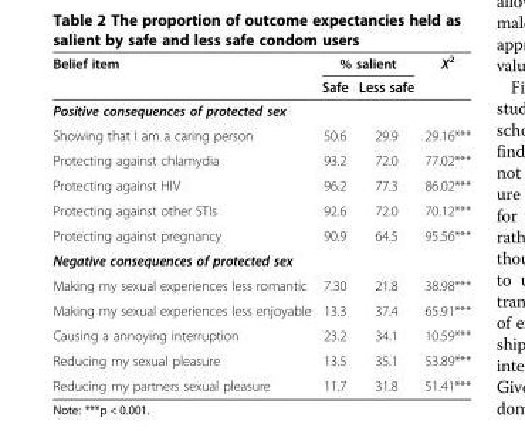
<table><thead><tr><td rowspan="2">Belief item</td><td colspan="2">% salient</td><td rowspan="2">X<sup>2</sup></td></tr><tr><td>Safe</td><td>Less safe</td></tr></thead><tbody><tr><td colspan="4">Positive consequences of protected sex</td></tr><tr><td>Showing that I am a caring person</td><td>50.6</td><td>29.9</td><td>29.16***</td></tr><tr><td>Protecting against chlamydia</td><td>93.2</td><td>72.0</td><td>77.02***</td></tr><tr><td>Protecting against HIV</td><td>96.2</td><td>77.3</td><td>86.02***</td></tr><tr><td>Protecting against other STIs</td><td>92.6</td><td>72.0</td><td>70.12***</td></tr><tr><td>Protecting against pregnancy</td><td>90.9</td><td>64.5</td><td>95.56***</td></tr><tr><td colspan="4">Negative consequences of protected sex</td></tr><tr><td>Making my sexual experiences less romantic</td><td>7.30</td><td>21.8</td><td>38.98***</td></tr><tr><td>Making my sexual experiences less enjoyable</td><td>13.3</td><td>37.4</td><td>65.91***</td></tr><tr><td>Causing a annoying interruption</td><td>23.2</td><td>34.1</td><td>10.59***</td></tr><tr><td>Reducing my sexual pleasure</td><td>13.5</td><td>35.1</td><td>53.89***</td></tr><tr><td>Reducing my partners sexual pleasure</td><td>11.7</td><td>31.8</td><td>51.41***</td></tr></tbody></table>